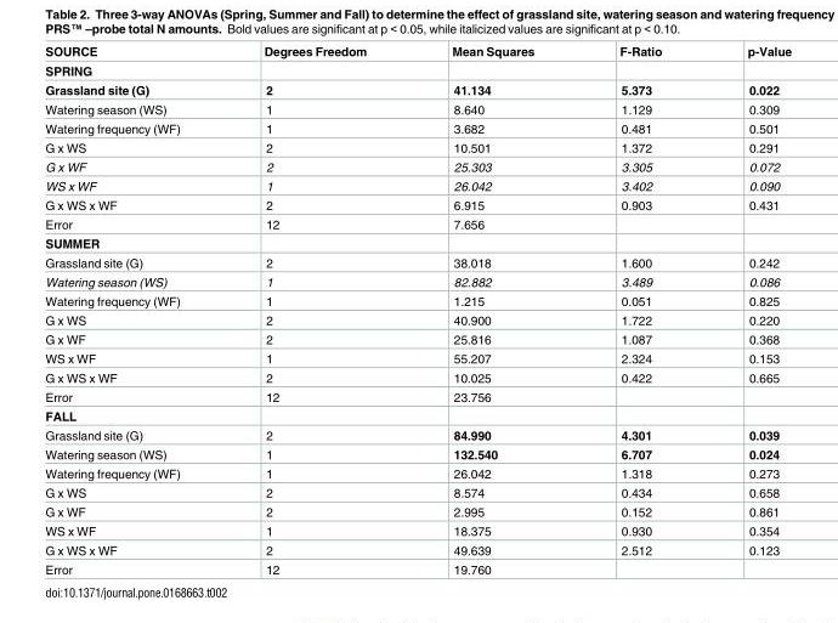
<table><thead><tr><td>SOURCE</td><td>Degrees Freedom</td><td>Mean Squares</td><td>F-Ratio</td><td>p-Value</td></tr></thead><tbody><tr><td colspan="5">SPRING</td></tr><tr><td>Grassland site (G)</td><td>2</td><td>41.134</td><td>5.373</td><td>0.022</td></tr><tr><td>Watering season (WS)</td><td>1</td><td>8.640</td><td>1.129</td><td>0.309</td></tr><tr><td>Watering frequency (WF)</td><td>1</td><td>3.682</td><td>0.481</td><td>0.501</td></tr><tr><td>G x WS</td><td>2</td><td>10.501</td><td>1.372</td><td>0.291</td></tr><tr><td>G x WF</td><td>2</td><td>25.303</td><td>3.305</td><td>0.072</td></tr><tr><td>WS x WF</td><td>1</td><td>26.042</td><td>3.402</td><td>0.090</td></tr><tr><td>G x WS x WF</td><td>2</td><td>6.915</td><td>0.903</td><td>0.431</td></tr><tr><td>Error</td><td>12</td><td>7.656</td><td></td><td></td></tr><tr><td colspan="5">SUMMER</td></tr><tr><td>Grassland site (G)</td><td>2</td><td>38.018</td><td>1.600</td><td>0.242</td></tr><tr><td>Watering season (WS)</td><td>1</td><td>82.882</td><td>3.489</td><td>0.086</td></tr><tr><td>Watering frequency (WF)</td><td>1</td><td>1.215</td><td>0.051</td><td>0.825</td></tr><tr><td>G x WS</td><td>2</td><td>40.900</td><td>1.722</td><td>0.220</td></tr><tr><td>G x WF</td><td>2</td><td>25.816</td><td>1.087</td><td>0.368</td></tr><tr><td>WS x WF</td><td>1</td><td>55.207</td><td>2.324</td><td>0.153</td></tr><tr><td>G x WS x WF</td><td>2</td><td>10.025</td><td>0.422</td><td>0.665</td></tr><tr><td>Error</td><td>12</td><td>23.756</td><td></td><td></td></tr><tr><td colspan="5">FALL</td></tr><tr><td>Grassland site (G)</td><td>2</td><td>84.990</td><td>4.301</td><td>0.039</td></tr><tr><td>Watering season (WS)</td><td>1</td><td>132.540</td><td>6.707</td><td>0.024</td></tr><tr><td>Watering frequency (WF)</td><td>1</td><td>26.042</td><td>1.318</td><td>0.273</td></tr><tr><td>G x WS</td><td>2</td><td>8.574</td><td>0.434</td><td>0.658</td></tr><tr><td>G x WF</td><td>2</td><td>2.995</td><td>0.152</td><td>0.861</td></tr><tr><td>WS x WF</td><td>1</td><td>18.375</td><td>0.930</td><td>0.354</td></tr><tr><td>G x WS x WF</td><td>2</td><td>49.639</td><td>2.512</td><td>0.123</td></tr><tr><td>Error</td><td>12</td><td>19.760</td><td></td><td></td></tr></tbody></table>